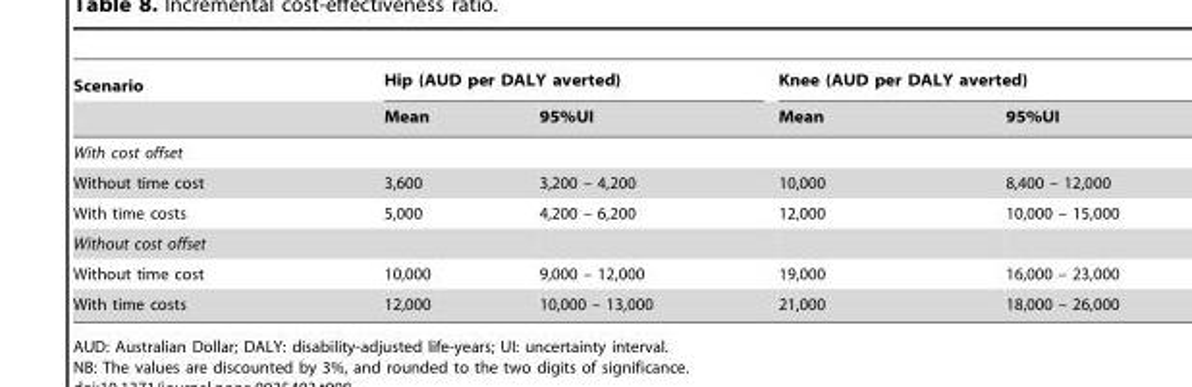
<table><thead><tr><td rowspan="2">Scenario</td><td colspan="2">Hip (AUD per DALY averted)</td><td colspan="2">Knee (AUD per DALY averted)</td></tr><tr><td>Mean</td><td>95%UI</td><td>Mean</td><td>95%UI</td></tr></thead><tbody><tr><td colspan="5">With cost offset</td></tr><tr><td>Without time cost</td><td>3,600</td><td>3,200 – 4,200</td><td>10,000</td><td>8,400 – 12,000</td></tr><tr><td>With time costs</td><td>5,000</td><td>4,200 – 6,200</td><td>12,000</td><td>10,000 – 15,000</td></tr><tr><td colspan="5">Without cost offset</td></tr><tr><td>Without time cost</td><td>10,000</td><td>9,000 – 12,000</td><td>19,000</td><td>16,000 – 23,000</td></tr><tr><td>With time costs</td><td>12,000</td><td>10,000 – 13,000</td><td>21,000</td><td>18,000 – 26,000</td></tr></tbody></table>